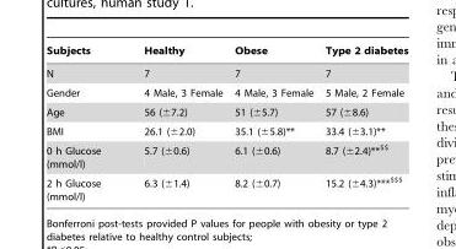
<table><thead><tr><td>Subjects</td><td>Healthy</td><td>Obese</td><td>Type 2 diabetes</td></tr></thead><tbody><tr><td>N</td><td>7</td><td>7</td><td>7</td></tr><tr><td>Gender</td><td>4 Male, 3 Female</td><td>4 Male, 3 Female</td><td>5 Male, 2 Female</td></tr><tr><td>Age</td><td>56 (±7.2)</td><td>51 (±5.7)</td><td>57 (±8.6)</td></tr><tr><td>BMI</td><td>26.1 (±2.0)</td><td>35.1 (±5.8)**</td><td>33.4 (±3.1)**</td></tr><tr><td>0 h Glucose (mmol/l)</td><td>5.7 (±0.6)</td><td>6.1 (±0.6)</td><td>8.7 (±2.4)**$$</td></tr><tr><td>2 h Glucose (mmol/l)</td><td>6.3 (±1.4)</td><td>8.2 (±0.7)</td><td>15.2 (±4.3)***$$$</td></tr></tbody></table>